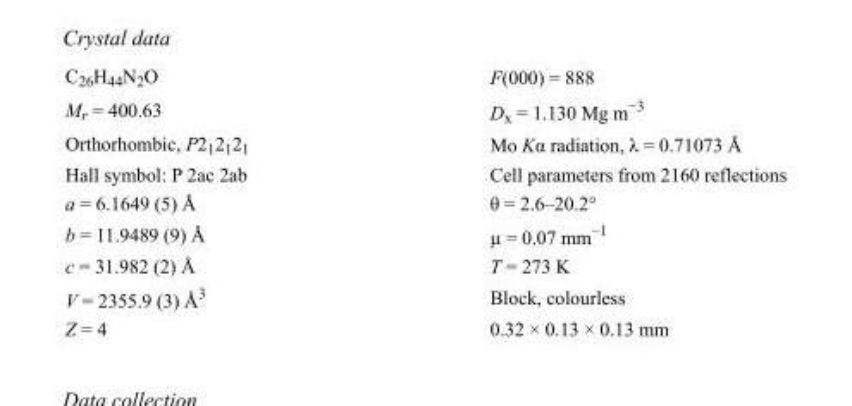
<table><tbody><tr><td>C<sub>26</sub>H<sub>44</sub>N<sub>2</sub>O</td><td>F(000) = 888</td></tr><tr><td>M<sub>r</sub> = 400.63</td><td>D<sub>x</sub> = 1.130 Mg m<sup>−3</sup></td></tr><tr><td>Orthorhombic, P2<sub>1</sub>2<sub>1</sub>2<sub>1</sub></td><td>Mo Kα radiation, λ = 0.71073 Å</td></tr><tr><td>Hall symbol: P 2ac 2ab</td><td>Cell parameters from 2160 reflections</td></tr><tr><td>a = 6.1649 (5) Å</td><td>θ = 2.6–20.2°</td></tr><tr><td>b = 11.9489 (9) Å</td><td>µ = 0.07 mm<sup>−1</sup></td></tr><tr><td>c = 31.982 (2) Å</td><td>T = 273 K</td></tr><tr><td>V = 2355.9 (3) Å<sup>3</sup></td><td>Block, colourless</td></tr><tr><td>Z = 4</td><td>0.32 × 0.13 × 0.13 mm</td></tr></tbody></table>